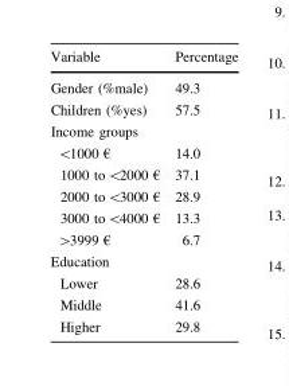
<table><thead><tr><td>Variable</td><td>Percentage</td></tr></thead><tbody><tr><td>Gender (%male)</td><td>49.3</td></tr><tr><td>Children (%yes)</td><td>57.5</td></tr><tr><td colspan="2">Income groups</td></tr><tr><td>&lt;1000 €</td><td>14.0</td></tr><tr><td>1000 to &lt;2000 €</td><td>37.1</td></tr><tr><td>2000 to &lt;3000 €</td><td>28.9</td></tr><tr><td>3000 to &lt;4000 €</td><td>13.3</td></tr><tr><td>&gt;3999 €</td><td>6.7</td></tr><tr><td colspan="2">Education</td></tr><tr><td>Lower</td><td>28.6</td></tr><tr><td>Middle</td><td>41.6</td></tr><tr><td>Higher</td><td>29.8</td></tr></tbody></table>